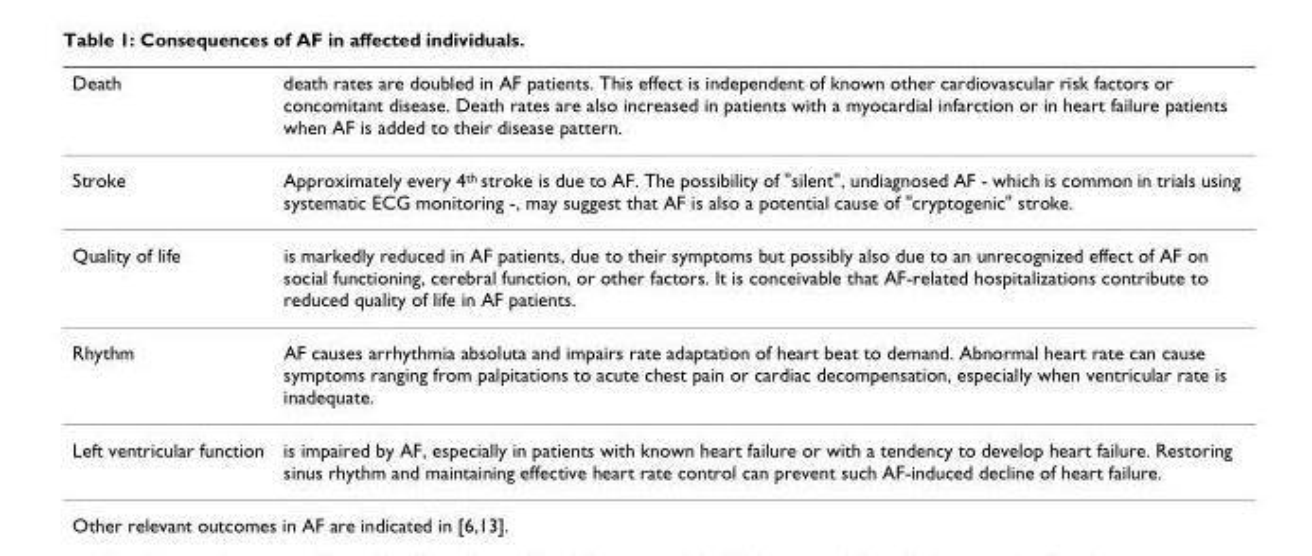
<table><thead><tr><td>Death</td><td>death rates are doubled in AF patients. This effect is independent of known other cardiovascular risk factors or concomitant disease. Death rates are also increased in patients with a myocardial infarction or in heart failure patients when AF is added to their disease pattern.</td></tr></thead><tbody><tr><td>Stroke</td><td>Approximately every 4<sup>th</sup> stroke is due to AF. The possibility of &quot;silent&quot;, undiagnosed AF - which is common in trials using systematic ECG monitoring -, may suggest that AF is also a potential cause of &quot;cryptogenic&quot; stroke.</td></tr><tr><td>Quality of life</td><td>is markedly reduced in AF patients, due to their symptoms but possibly also due to an unrecognized effect of AF on social functioning, cerebral function, or other factors. It is conceivable that AF-related hospitalizations contribute to reduced quality of life in AF patients.</td></tr><tr><td>Rhythm</td><td>AF causes arrhythmia absoluta and impairs rate adaptation of heart beat to demand. Abnormal heart rate can cause symptoms ranging from palpitations to acute chest pain or cardiac decompensation, especially when ventricular rate is inadequate.</td></tr><tr><td>Left ventricular function</td><td>is impaired by AF, especially in patients with known heart failure or with a tendency to develop heart failure. Restoring sinus rhythm and maintaining effective heart rate control can prevent such AF-induced decline of heart failure.</td></tr></tbody></table>